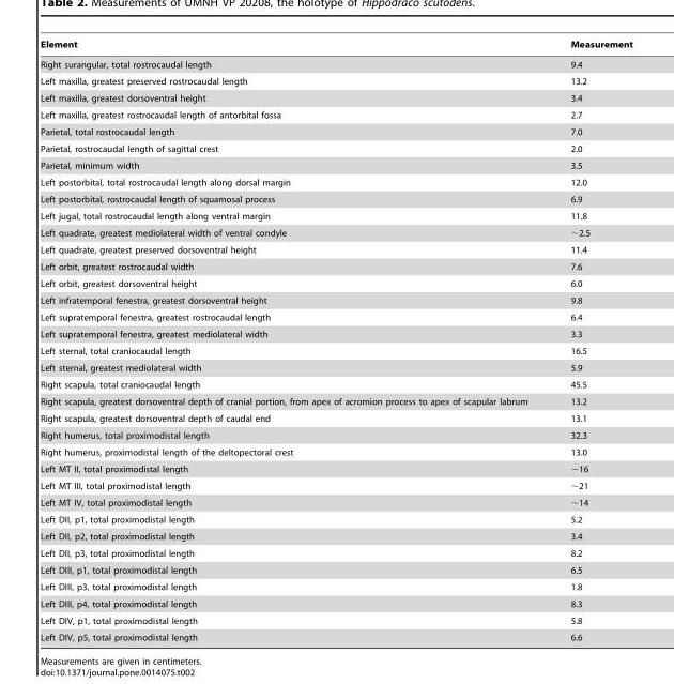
<table><thead><tr><td>Element</td><td>Measurement</td></tr></thead><tbody><tr><td>Right surangular, total rostrocaudal length</td><td>9.4</td></tr><tr><td>Left maxilla, greatest preserved rostrocaudal length</td><td>13.2</td></tr><tr><td>Left maxilla, greatest dorsoventral height</td><td>3.4</td></tr><tr><td>Left maxilla, greatest rostrocaudal length of antorbital fossa</td><td>2.7</td></tr><tr><td>Parietal, total rostrocaudal length</td><td>7.0</td></tr><tr><td>Parietal, rostrocaudal length of sagittal crest</td><td>2.0</td></tr><tr><td>Parietal, minimum width</td><td>3.5</td></tr><tr><td>Left postorbital, total rostrocaudal length along dorsal margin</td><td>12.0</td></tr><tr><td>Left postorbital, rostrocaudal length of squamosal process</td><td>6.9</td></tr><tr><td>Left jugal, total rostrocaudal length along ventral margin</td><td>11.8</td></tr><tr><td>Left quadrate, greatest mediolateral width of ventral condyle</td><td>∼2.5</td></tr><tr><td>Left quadrate, greatest preserved dorsoventral height</td><td>11.4</td></tr><tr><td>Left orbit, greatest rostrocaudal width</td><td>7.6</td></tr><tr><td>Left orbit, greatest dorsoventral height</td><td>6.0</td></tr><tr><td>Left infratemporal fenestra, greatest dorsoventral height</td><td>9.8</td></tr><tr><td>Left supratemporal fenestra, greatest rostrocaudal length</td><td>6.4</td></tr><tr><td>Left supratemporal fenestra, greatest mediolateral width</td><td>3.3</td></tr><tr><td>Left sternal, total craniocaudal length</td><td>16.5</td></tr><tr><td>Left sternal, greatest mediolateral width</td><td>5.9</td></tr><tr><td>Right scapula, total craniocaudal length</td><td>45.5</td></tr><tr><td>Right scapula, greatest dorsoventral depth of cranial portion, from apex of acromion process to apex of scapular labrum</td><td>13.2</td></tr><tr><td>Right scapula, greatest dorsoventral depth of caudal end</td><td>13.1</td></tr><tr><td>Right humerus, total proximodistal length</td><td>32.3</td></tr><tr><td>Right humerus, proximodistal length of the deltopectoral crest</td><td>13.0</td></tr><tr><td>Left MT II, total proximodistal length</td><td>∼16</td></tr><tr><td>Left MT III, total proximodistal length</td><td>∼21</td></tr><tr><td>Left MT IV, total proximodistal length</td><td>∼14</td></tr><tr><td>Left DII, p1, total proximodistal length</td><td>5.2</td></tr><tr><td>Left DII, p2, total proximodistal length</td><td>3.4</td></tr><tr><td>Left DII, p3, total proximodistal length</td><td>8.2</td></tr><tr><td>Left DIII, p1, total proximodistal length</td><td>6.5</td></tr><tr><td>Left DIII, p3, total proximodistal length</td><td>1.8</td></tr><tr><td>Left DIII, p4, total proximodistal length</td><td>8.3</td></tr><tr><td>Left DIV, p1, total proximodistal length</td><td>5.8</td></tr><tr><td>Left DIV, p5, total proximodistal length</td><td>6.6</td></tr></tbody></table>